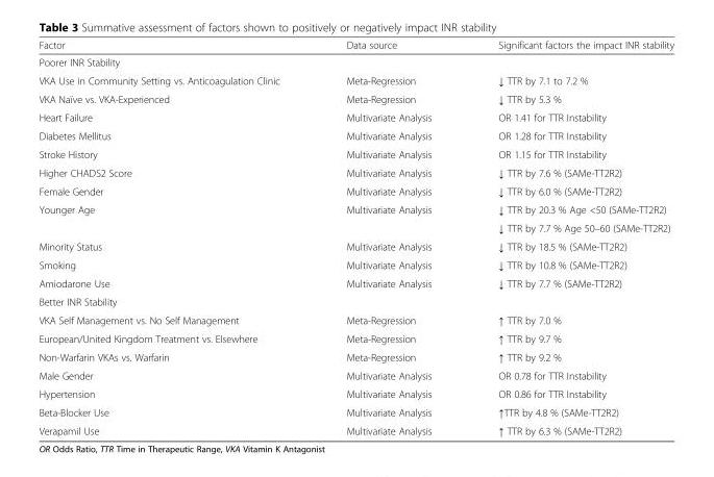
<table><thead><tr><td>Factor</td><td>Data source</td><td>Significant factors the impact INR stability</td></tr></thead><tbody><tr><td colspan="3">Poorer INR Stability</td></tr><tr><td>VKA Use in Community Setting vs. Anticoagulation Clinic</td><td>Meta-Regression</td><td>↓ TTR by 7.1 to 7.2 %</td></tr><tr><td>VKA Naïve vs. VKA-Experienced</td><td>Meta-Regression</td><td>↓ TTR by 5.3 %</td></tr><tr><td>Heart Failure</td><td>Multivariate Analysis</td><td>OR 1.41 for TTR Instability</td></tr><tr><td>Diabetes Mellitus</td><td>Multivariate Analysis</td><td>OR 1.28 for TTR Instability</td></tr><tr><td>Stroke History</td><td>Multivariate Analysis</td><td>OR 1.15 for TTR Instability</td></tr><tr><td>Higher CHADS2 Score</td><td>Multivariate Analysis</td><td>↓ TTR by 7.6 % (SAMe-TT2R2)</td></tr><tr><td>Female Gender</td><td>Multivariate Analysis</td><td>↓ TTR by 6.0 % (SAMe-TT2R2)</td></tr><tr><td rowspan="2">Younger Age</td><td rowspan="2">Multivariate Analysis</td><td>↓ TTR by 20.3 % Age &lt;50 (SAMe-TT2R2)</td></tr><tr><td>↓ TTR by 7.7 % Age 50–60 (SAMe-TT2R2)</td></tr><tr><td>Minority Status</td><td>Multivariate Analysis</td><td>↓ TTR by 18.5 % (SAMe-TT2R2)</td></tr><tr><td>Smoking</td><td>Multivariate Analysis</td><td>↓ TTR by 10.8 % (SAMe-TT2R2)</td></tr><tr><td>Amiodarone Use</td><td>Multivariate Analysis</td><td>↓ TTR by 7.7 % (SAMe-TT2R2)</td></tr><tr><td colspan="3">Better INR Stability</td></tr><tr><td>VKA Self Management vs. No Self Management</td><td>Meta-Regression</td><td>↑ TTR by 7.0 %</td></tr><tr><td>European/United Kingdom Treatment vs. Elsewhere</td><td>Meta-Regression</td><td>↑ TTR by 9.7 %</td></tr><tr><td>Non-Warfarin VKAs vs. Warfarin</td><td>Meta-Regression</td><td>↑ TTR by 9.2 %</td></tr><tr><td>Male Gender</td><td>Multivariate Analysis</td><td>OR 0.78 for TTR Instability</td></tr><tr><td>Hypertension</td><td>Multivariate Analysis</td><td>OR 0.86 for TTR Instability</td></tr><tr><td>Beta-Blocker Use</td><td>Multivariate Analysis</td><td>↑TTR by 4.8 % (SAMe-TT2R2)</td></tr><tr><td>Verapamil Use</td><td>Multivariate Analysis</td><td>↑ TTR by 6.3 % (SAMe-TT2R2)</td></tr></tbody></table>